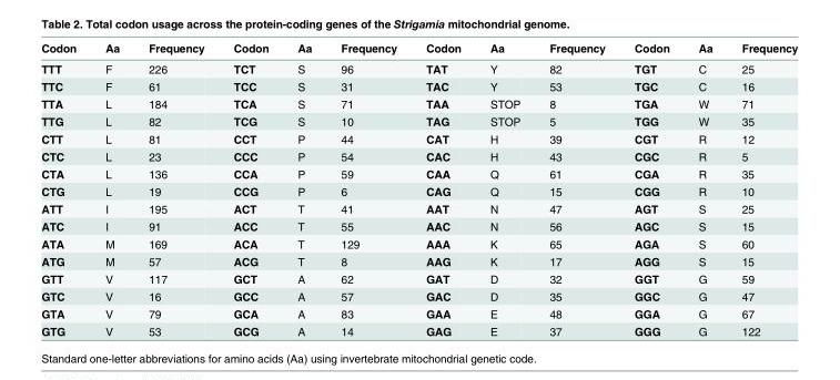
<table><thead><tr><td>Codon</td><td>Aa</td><td>Frequency</td><td>Codon</td><td>Aa</td><td>Frequency</td><td>Codon</td><td>Aa</td><td>Frequency</td><td>Codon</td><td>Aa</td><td>Frequency</td></tr></thead><tbody><tr><td>TTT</td><td>F</td><td>226</td><td>TCT</td><td>S</td><td>96</td><td>TAT</td><td>Y</td><td>82</td><td>TGT</td><td>C</td><td>25</td></tr><tr><td>TTC</td><td>F</td><td>61</td><td>TCC</td><td>S</td><td>31</td><td>TAC</td><td>Y</td><td>53</td><td>TGC</td><td>C</td><td>16</td></tr><tr><td>TTA</td><td>L</td><td>184</td><td>TCA</td><td>S</td><td>71</td><td>TAA</td><td>STOP</td><td>8</td><td>TGA</td><td>W</td><td>71</td></tr><tr><td>TTG</td><td>L</td><td>82</td><td>TCG</td><td>S</td><td>10</td><td>TAG</td><td>STOP</td><td>5</td><td>TGG</td><td>W</td><td>35</td></tr><tr><td>CTT</td><td>L</td><td>81</td><td>CCT</td><td>P</td><td>44</td><td>CAT</td><td>H</td><td>39</td><td>CGT</td><td>R</td><td>12</td></tr><tr><td>CTC</td><td>L</td><td>23</td><td>CCC</td><td>P</td><td>54</td><td>CAC</td><td>H</td><td>43</td><td>CGC</td><td>R</td><td>5</td></tr><tr><td>CTA</td><td>L</td><td>136</td><td>CCA</td><td>P</td><td>59</td><td>CAA</td><td>Q</td><td>61</td><td>CGA</td><td>R</td><td>35</td></tr><tr><td>CTG</td><td>L</td><td>19</td><td>CCG</td><td>P</td><td>6</td><td>CAG</td><td>Q</td><td>15</td><td>CGG</td><td>R</td><td>10</td></tr><tr><td>ATT</td><td>I</td><td>195</td><td>ACT</td><td>T</td><td>41</td><td>AAT</td><td>N</td><td>47</td><td>AGT</td><td>S</td><td>25</td></tr><tr><td>ATC</td><td>I</td><td>91</td><td>ACC</td><td>T</td><td>55</td><td>AAC</td><td>N</td><td>56</td><td>AGC</td><td>S</td><td>15</td></tr><tr><td>ATA</td><td>M</td><td>169</td><td>ACA</td><td>T</td><td>129</td><td>AAA</td><td>K</td><td>65</td><td>AGA</td><td>S</td><td>60</td></tr><tr><td>ATG</td><td>M</td><td>57</td><td>ACG</td><td>T</td><td>8</td><td>AAG</td><td>K</td><td>17</td><td>AGG</td><td>S</td><td>15</td></tr><tr><td>GTT</td><td>V</td><td>117</td><td>GCT</td><td>A</td><td>62</td><td>GAT</td><td>D</td><td>32</td><td>GGT</td><td>G</td><td>59</td></tr><tr><td>GTC</td><td>V</td><td>16</td><td>GCC</td><td>A</td><td>57</td><td>GAC</td><td>D</td><td>35</td><td>GGC</td><td>G</td><td>47</td></tr><tr><td>GTA</td><td>V</td><td>79</td><td>GCA</td><td>A</td><td>83</td><td>GAA</td><td>E</td><td>48</td><td>GGA</td><td>G</td><td>67</td></tr><tr><td>GTG</td><td>V</td><td>53</td><td>GCG</td><td>A</td><td>14</td><td>GAG</td><td>E</td><td>37</td><td>GGG</td><td>G</td><td>122</td></tr></tbody></table>